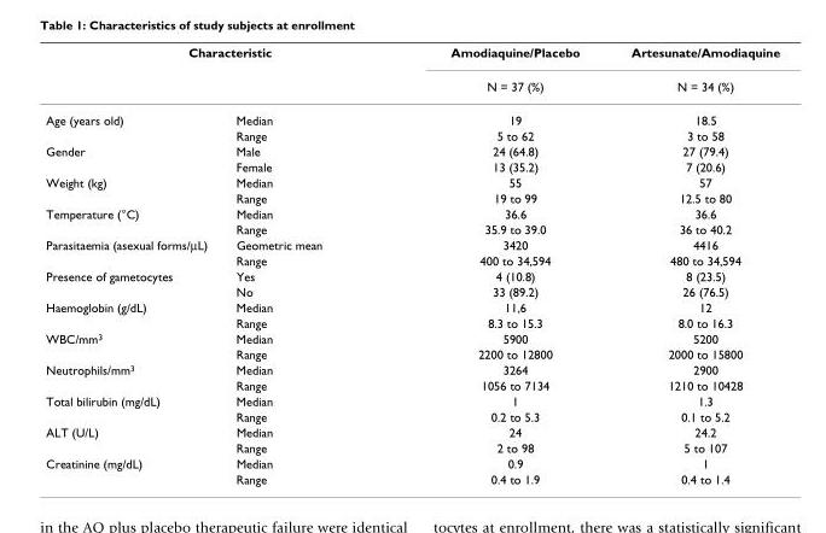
<table><thead><tr><td colspan="2">Characteristic</td><td rowspan="2">Amodiaquine/Placebo N = 37 (%)</td><td rowspan="2">Artesunate/Amodiaquine N = 34 (%)</td></tr><tr><td></td><td></td></tr></thead><tbody><tr><td rowspan="2">Age (years old)</td><td>Median</td><td>19</td><td>18.5</td></tr><tr><td>Range</td><td>5 to 62</td><td>3 to 58</td></tr><tr><td rowspan="2">Gender</td><td>Male</td><td>24 (64.8)</td><td>27 (79.4)</td></tr><tr><td>Female</td><td>13 (35.2)</td><td>7 (20.6)</td></tr><tr><td rowspan="2">Weight (kg)</td><td>Median</td><td>55</td><td>57</td></tr><tr><td>Range</td><td>19 to 99</td><td>12.5 to 80</td></tr><tr><td rowspan="2">Temperature (°C)</td><td>Median</td><td>36.6</td><td>36.6</td></tr><tr><td>Range</td><td>35.9 to 39.0</td><td>36 to 40.2</td></tr><tr><td rowspan="2">Parasitaemia (asexual forms/μL)</td><td>Geometric mean</td><td>3420</td><td>4416</td></tr><tr><td>Range</td><td>400 to 34,594</td><td>480 to 34,594</td></tr><tr><td rowspan="2">Presence of gametocytes</td><td>Yes</td><td>4 (10.8)</td><td>8 (23.5)</td></tr><tr><td>No</td><td>33 (89.2)</td><td>26 (76.5)</td></tr><tr><td rowspan="2">Haemoglobin (g/dL)</td><td>Median</td><td>11,6</td><td>12</td></tr><tr><td>Range</td><td>8.3 to 15.3</td><td>8.0 to 16.3</td></tr><tr><td rowspan="2">WBC/mm<sup>3</sup></td><td>Median</td><td>5900</td><td>5200</td></tr><tr><td>Range</td><td>2200 to 12800</td><td>2000 to 15800</td></tr><tr><td rowspan="2">Neutrophils/mm<sup>3</sup></td><td>Median</td><td>3264</td><td>2900</td></tr><tr><td>Range</td><td>1056 to 7134</td><td>1210 to 10428</td></tr><tr><td rowspan="2">Total bilirubin (mg/dL)</td><td>Median</td><td>1</td><td>1.3</td></tr><tr><td>Range</td><td>0.2 to 5.3</td><td>0.1 to 5.2</td></tr><tr><td rowspan="2">ALT (U/L)</td><td>Median</td><td>24</td><td>24.2</td></tr><tr><td>Range</td><td>2 to 98</td><td>5 to 107</td></tr><tr><td rowspan="2">Creatinine (mg/dL)</td><td>Median</td><td>0.9</td><td>1</td></tr><tr><td>Range</td><td>0.4 to 1.9</td><td>0.4 to 1.4</td></tr></tbody></table>